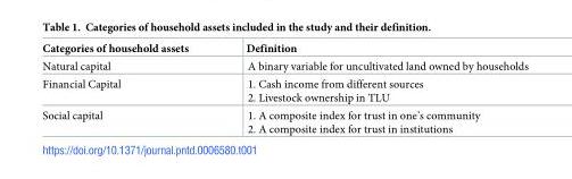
<table><thead><tr><td>Categories of household assets</td><td>Definition</td></tr></thead><tbody><tr><td>Natural capital</td><td>A binary variable for uncultivated land owned by households</td></tr><tr><td>Financial Capital</td><td>1. Cash income from different sources 2. Livestock ownership in TLU</td></tr><tr><td>Social capital</td><td>1. A composite index for trust in one’s community 2. A composite index for trust in institutions</td></tr></tbody></table>